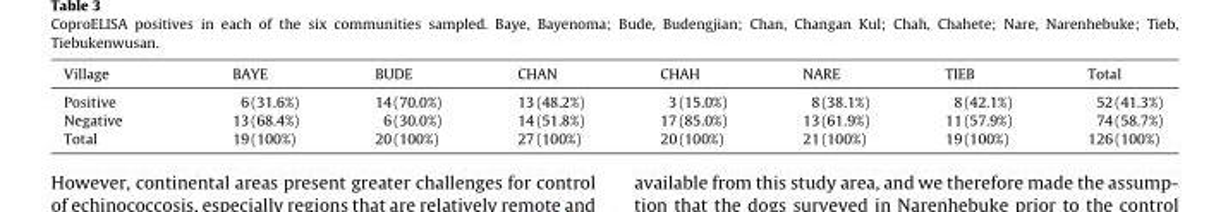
<table><thead><tr><td>Village</td><td>BAYE</td><td>BUDE</td><td>CHAN</td><td>CHAH</td><td>NARE</td><td>TIEB</td><td>Total</td></tr></thead><tbody><tr><td>Positive</td><td>6 (31.6%)</td><td>14 (70.0%)</td><td>13 (48.2%)</td><td>3 (15.0%)</td><td>8 (38.1%)</td><td>8 (42.1%)</td><td>52 (41.3%)</td></tr><tr><td>Negative</td><td>13 (68.4%)</td><td>6 (30.0%)</td><td>14 (51.8%)</td><td>17 (85.0%)</td><td>13 (61.9%)</td><td>11 (57.9%)</td><td>74 (58.7%)</td></tr><tr><td>Total</td><td>19 (100%)</td><td>20 (100%)</td><td>27 (100%)</td><td>20 (100%)</td><td>21 (100%)</td><td>19 (100%)</td><td>126 (100%)</td></tr></tbody></table>